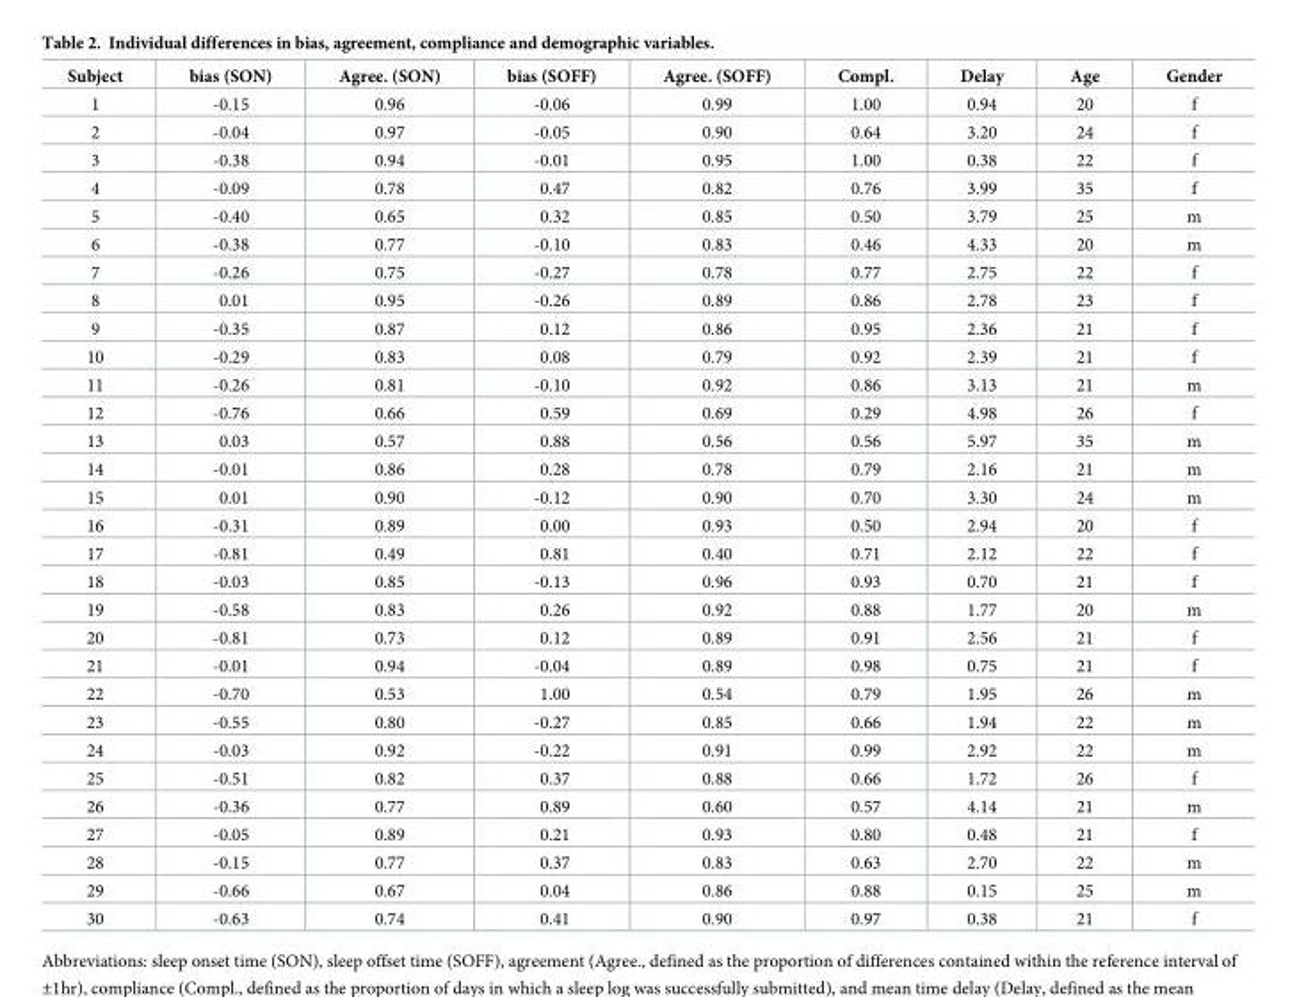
<table><thead><tr><td>Subject</td><td>bias (SON)</td><td>Agree. (SON)</td><td>bias (SOFF)</td><td>Agree. (SOFF)</td><td>Compl.</td><td>Delay</td><td>Age</td><td>Gender</td></tr></thead><tbody><tr><td>1</td><td>-0.15</td><td>0.96</td><td>-0.06</td><td>0.99</td><td>1.00</td><td>0.94</td><td>20</td><td>f</td></tr><tr><td>2</td><td>-0.04</td><td>0.97</td><td>-0.05</td><td>0.90</td><td>0.64</td><td>3.20</td><td>24</td><td>f</td></tr><tr><td>3</td><td>-0.38</td><td>0.94</td><td>-0.01</td><td>0.95</td><td>1.00</td><td>0.38</td><td>22</td><td>f</td></tr><tr><td>4</td><td>-0.09</td><td>0.78</td><td>0.47</td><td>0.82</td><td>0.76</td><td>3.99</td><td>35</td><td>f</td></tr><tr><td>5</td><td>-0.40</td><td>0.65</td><td>0.32</td><td>0.85</td><td>0.50</td><td>3.79</td><td>25</td><td>m</td></tr><tr><td>6</td><td>-0.38</td><td>0.77</td><td>-0.10</td><td>0.83</td><td>0.46</td><td>4.33</td><td>20</td><td>m</td></tr><tr><td>7</td><td>-0.26</td><td>0.75</td><td>-0.27</td><td>0.78</td><td>0.77</td><td>2.75</td><td>22</td><td>f</td></tr><tr><td>8</td><td>0.01</td><td>0.95</td><td>-0.26</td><td>0.89</td><td>0.86</td><td>2.78</td><td>23</td><td>f</td></tr><tr><td>9</td><td>-0.35</td><td>0.87</td><td>0.12</td><td>0.86</td><td>0.95</td><td>2.36</td><td>21</td><td>f</td></tr><tr><td>10</td><td>-0.29</td><td>0.83</td><td>0.08</td><td>0.79</td><td>0.92</td><td>2.39</td><td>21</td><td>f</td></tr><tr><td>11</td><td>-0.26</td><td>0.81</td><td>-0.10</td><td>0.92</td><td>0.86</td><td>3.13</td><td>21</td><td>m</td></tr><tr><td>12</td><td>-0.76</td><td>0.66</td><td>0.59</td><td>0.69</td><td>0.29</td><td>4.98</td><td>26</td><td>f</td></tr><tr><td>13</td><td>0.03</td><td>0.57</td><td>0.88</td><td>0.56</td><td>0.56</td><td>5.97</td><td>35</td><td>m</td></tr><tr><td>14</td><td>-0.01</td><td>0.86</td><td>0.28</td><td>0.78</td><td>0.79</td><td>2.16</td><td>21</td><td>m</td></tr><tr><td>15</td><td>0.01</td><td>0.90</td><td>-0.12</td><td>0.90</td><td>0.70</td><td>3.30</td><td>24</td><td>m</td></tr><tr><td>16</td><td>-0.31</td><td>0.89</td><td>0.00</td><td>0.93</td><td>0.50</td><td>2.94</td><td>20</td><td>f</td></tr><tr><td>17</td><td>-0.81</td><td>0.49</td><td>0.81</td><td>0.40</td><td>0.71</td><td>2.12</td><td>22</td><td>f</td></tr><tr><td>18</td><td>-0.03</td><td>0.85</td><td>-0.13</td><td>0.96</td><td>0.93</td><td>0.70</td><td>21</td><td>f</td></tr><tr><td>19</td><td>-0.58</td><td>0.83</td><td>0.26</td><td>0.92</td><td>0.88</td><td>1.77</td><td>20</td><td>m</td></tr><tr><td>20</td><td>-0.81</td><td>0.73</td><td>0.12</td><td>0.89</td><td>0.91</td><td>2.56</td><td>21</td><td>f</td></tr><tr><td>21</td><td>-0.01</td><td>0.94</td><td>-0.04</td><td>0.89</td><td>0.98</td><td>0.75</td><td>21</td><td>f</td></tr><tr><td>22</td><td>-0.70</td><td>0.53</td><td>1.00</td><td>0.54</td><td>0.79</td><td>1.95</td><td>26</td><td>m</td></tr><tr><td>23</td><td>-0.55</td><td>0.80</td><td>-0.27</td><td>0.85</td><td>0.66</td><td>1.94</td><td>22</td><td>m</td></tr><tr><td>24</td><td>-0.03</td><td>0.92</td><td>-0.22</td><td>0.91</td><td>0.99</td><td>2.92</td><td>22</td><td>m</td></tr><tr><td>25</td><td>-0.51</td><td>0.82</td><td>0.37</td><td>0.88</td><td>0.66</td><td>1.72</td><td>26</td><td>f</td></tr><tr><td>26</td><td>-0.36</td><td>0.77</td><td>0.89</td><td>0.60</td><td>0.57</td><td>4.14</td><td>21</td><td>m</td></tr><tr><td>27</td><td>-0.05</td><td>0.89</td><td>0.21</td><td>0.93</td><td>0.80</td><td>0.48</td><td>21</td><td>f</td></tr><tr><td>28</td><td>-0.15</td><td>0.77</td><td>0.37</td><td>0.83</td><td>0.63</td><td>2.70</td><td>22</td><td>m</td></tr><tr><td>29</td><td>-0.66</td><td>0.67</td><td>0.04</td><td>0.86</td><td>0.88</td><td>0.15</td><td>25</td><td>m</td></tr><tr><td>30</td><td>-0.63</td><td>0.74</td><td>0.41</td><td>0.90</td><td>0.97</td><td>0.38</td><td>21</td><td>f</td></tr></tbody></table>